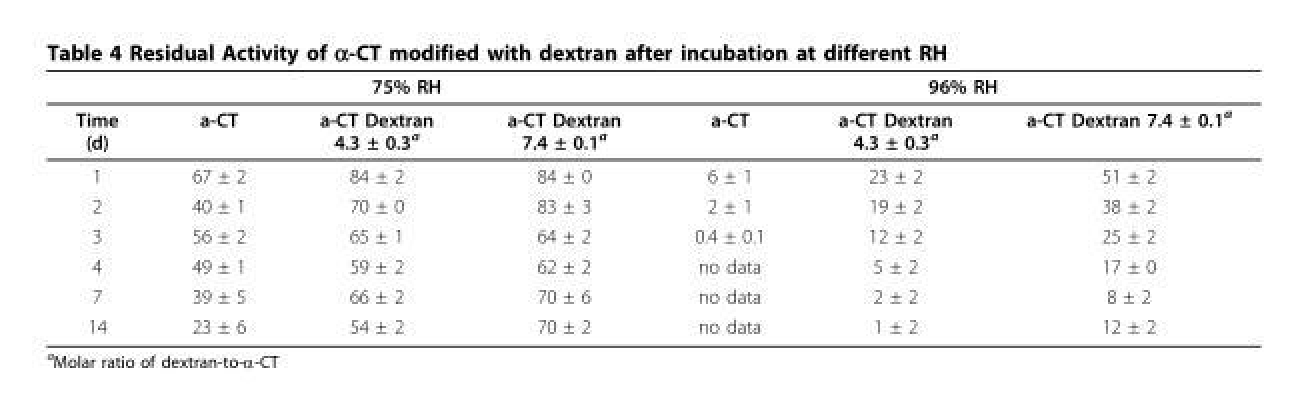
<table><thead><tr><td rowspan="2">Time (d)</td><td colspan="3">75% RH</td><td colspan="3">96% RH</td></tr><tr><td>a-CT</td><td>a-CT Dextran 4.3 ± 0.3<sup>a</sup></td><td>a-CT Dextran 7.4 ± 0.1<sup>a</sup></td><td>a-CT</td><td>a-CT Dextran 4.3 ± 0.3<sup>a</sup></td><td>a-CT Dextran 7.4 ± 0.1<sup>a</sup></td></tr></thead><tbody><tr><td>1</td><td>67 ± 2</td><td>84 ± 2</td><td>84 ± 0</td><td>6 ± 1</td><td>23 ± 2</td><td>51 ± 2</td></tr><tr><td>2</td><td>40 ± 1</td><td>70 ± 0</td><td>83 ± 3</td><td>2 ± 1</td><td>19 ± 2</td><td>38 ± 2</td></tr><tr><td>3</td><td>56 ± 2</td><td>65 ± 1</td><td>64 ± 2</td><td>0.4 ± 0.1</td><td>12 ± 2</td><td>25 ± 2</td></tr><tr><td>4</td><td>49 ± 1</td><td>59 ± 2</td><td>62 ± 2</td><td>no data</td><td>5 ± 2</td><td>17 ± 0</td></tr><tr><td>7</td><td>39 ± 5</td><td>66 ± 2</td><td>70 ± 6</td><td>no data</td><td>2 ± 2</td><td>8 ± 2</td></tr><tr><td>14</td><td>23 ± 6</td><td>54 ± 2</td><td>70 ± 2</td><td>no data</td><td>1 ± 2</td><td>12 ± 2</td></tr></tbody></table>